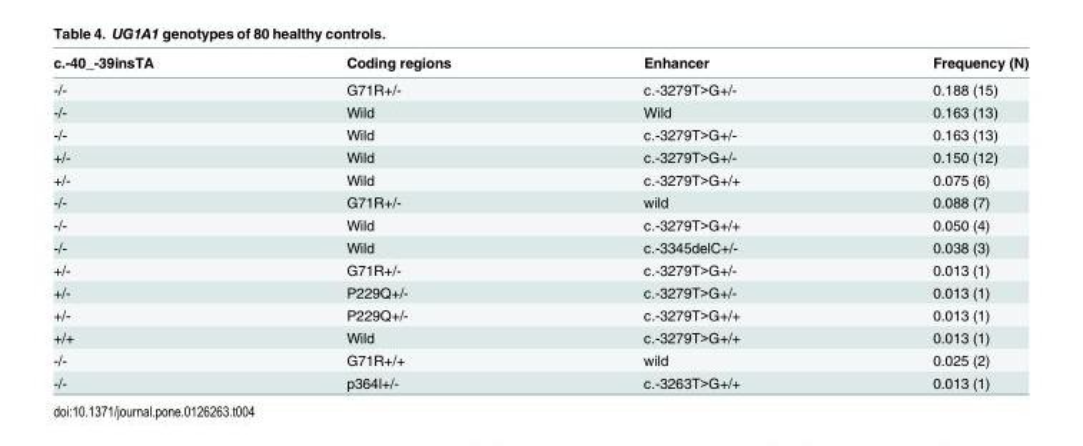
<table><thead><tr><td>c.-40_-39insTA</td><td>Coding regions</td><td>Enhancer</td><td>Frequency (N)</td></tr></thead><tbody><tr><td>-/-</td><td>G71R+/-</td><td>c.-3279T&gt;G+/-</td><td>0.188 (15)</td></tr><tr><td>-/-</td><td>Wild</td><td>Wild</td><td>0.163 (13)</td></tr><tr><td>-/-</td><td>Wild</td><td>c.-3279T&gt;G+/-</td><td>0.163 (13)</td></tr><tr><td>+/-</td><td>Wild</td><td>c.-3279T&gt;G+/-</td><td>0.150 (12)</td></tr><tr><td>+/-</td><td>Wild</td><td>c.-3279T&gt;G+/+</td><td>0.075 (6)</td></tr><tr><td>-/-</td><td>G71R+/-</td><td>wild</td><td>0.088 (7)</td></tr><tr><td>-/-</td><td>Wild</td><td>c.-3279T&gt;G+/+</td><td>0.050 (4)</td></tr><tr><td>-/-</td><td>Wild</td><td>c.-3345delC+/-</td><td>0.038 (3)</td></tr><tr><td>+/-</td><td>G71R+/-</td><td>c.-3279T&gt;G+/-</td><td>0.013 (1)</td></tr><tr><td>+/-</td><td>P229Q+/-</td><td>c.-3279T&gt;G+/-</td><td>0.013 (1)</td></tr><tr><td>+/-</td><td>P229Q+/-</td><td>c.-3279T&gt;G+/+</td><td>0.013 (1)</td></tr><tr><td>+/+</td><td>Wild</td><td>c.-3279T&gt;G+/+</td><td>0.013 (1)</td></tr><tr><td>-/-</td><td>G71R+/+</td><td>wild</td><td>0.025 (2)</td></tr><tr><td>-/-</td><td>p364l+/-</td><td>c.-3263T&gt;G+/+</td><td>0.013 (1)</td></tr></tbody></table>